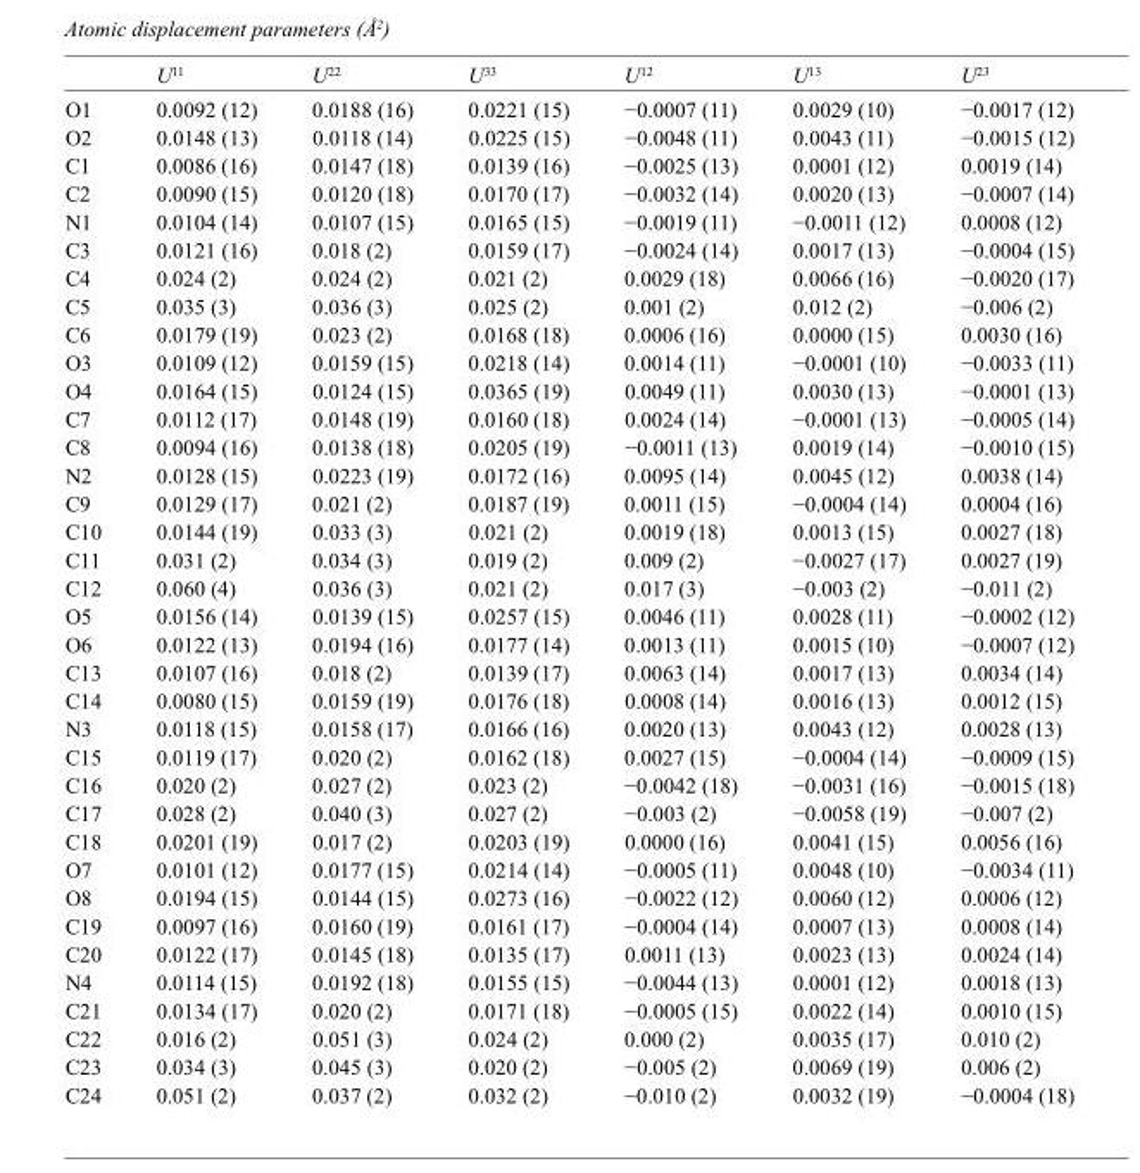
<table><thead><tr><td></td><td>U<sup>11</sup></td><td>U<sup>22</sup></td><td>U<sup>33</sup></td><td>U<sup>12</sup></td><td>U<sup>13</sup></td><td>U<sup>23</sup></td></tr></thead><tbody><tr><td>O1</td><td>0.0092 (12)</td><td>0.0188 (16)</td><td>0.0221 (15)</td><td>−0.0007 (11)</td><td>0.0029 (10)</td><td>−0.0017 (12)</td></tr><tr><td>O2</td><td>0.0148 (13)</td><td>0.0118 (14)</td><td>0.0225 (15)</td><td>−0.0048 (11)</td><td>0.0043 (11)</td><td>−0.0015 (12)</td></tr><tr><td>C1</td><td>0.0086 (16)</td><td>0.0147 (18)</td><td>0.0139 (16)</td><td>−0.0025 (13)</td><td>0.0001 (12)</td><td>0.0019 (14)</td></tr><tr><td>C2</td><td>0.0090 (15)</td><td>0.0120 (18)</td><td>0.0170 (17)</td><td>−0.0032 (14)</td><td>0.0020 (13)</td><td>−0.0007 (14)</td></tr><tr><td>N1</td><td>0.0104 (14)</td><td>0.0107 (15)</td><td>0.0165 (15)</td><td>−0.0019 (11)</td><td>−0.0011 (12)</td><td>0.0008 (12)</td></tr><tr><td>C3</td><td>0.0121 (16)</td><td>0.018 (2)</td><td>0.0159 (17)</td><td>−0.0024 (14)</td><td>0.0017 (13)</td><td>−0.0004 (15)</td></tr><tr><td>C4</td><td>0.024 (2)</td><td>0.024 (2)</td><td>0.021 (2)</td><td>0.0029 (18)</td><td>0.0066 (16)</td><td>−0.0020 (17)</td></tr><tr><td>C5</td><td>0.035 (3)</td><td>0.036 (3)</td><td>0.025 (2)</td><td>0.001 (2)</td><td>0.012 (2)</td><td>−0.006 (2)</td></tr><tr><td>C6</td><td>0.0179 (19)</td><td>0.023 (2)</td><td>0.0168 (18)</td><td>0.0006 (16)</td><td>0.0000 (15)</td><td>0.0030 (16)</td></tr><tr><td>O3</td><td>0.0109 (12)</td><td>0.0159 (15)</td><td>0.0218 (14)</td><td>0.0014 (11)</td><td>−0.0001 (10)</td><td>−0.0033 (11)</td></tr><tr><td>O4</td><td>0.0164 (15)</td><td>0.0124 (15)</td><td>0.0365 (19)</td><td>0.0049 (11)</td><td>0.0030 (13)</td><td>−0.0001 (13)</td></tr><tr><td>C7</td><td>0.0112 (17)</td><td>0.0148 (19)</td><td>0.0160 (18)</td><td>0.0024 (14)</td><td>−0.0001 (13)</td><td>−0.0005 (14)</td></tr><tr><td>C8</td><td>0.0094 (16)</td><td>0.0138 (18)</td><td>0.0205 (19)</td><td>−0.0011 (13)</td><td>0.0019 (14)</td><td>−0.0010 (15)</td></tr><tr><td>N2</td><td>0.0128 (15)</td><td>0.0223 (19)</td><td>0.0172 (16)</td><td>0.0095 (14)</td><td>0.0045 (12)</td><td>0.0038 (14)</td></tr><tr><td>C9</td><td>0.0129 (17)</td><td>0.021 (2)</td><td>0.0187 (19)</td><td>0.0011 (15)</td><td>−0.0004 (14)</td><td>0.0004 (16)</td></tr><tr><td>C10</td><td>0.0144 (19)</td><td>0.033 (3)</td><td>0.021 (2)</td><td>0.0019 (18)</td><td>0.0013 (15)</td><td>0.0027 (18)</td></tr><tr><td>C11</td><td>0.031 (2)</td><td>0.034 (3)</td><td>0.019 (2)</td><td>0.009 (2)</td><td>−0.0027 (17)</td><td>0.0027 (19)</td></tr><tr><td>C12</td><td>0.060 (4)</td><td>0.036 (3)</td><td>0.021 (2)</td><td>0.017 (3)</td><td>−0.003 (2)</td><td>−0.011 (2)</td></tr><tr><td>O5</td><td>0.0156 (14)</td><td>0.0139 (15)</td><td>0.0257 (15)</td><td>0.0046 (11)</td><td>0.0028 (11)</td><td>−0.0002 (12)</td></tr><tr><td>O6</td><td>0.0122 (13)</td><td>0.0194 (16)</td><td>0.0177 (14)</td><td>0.0013 (11)</td><td>0.0015 (10)</td><td>−0.0007 (12)</td></tr><tr><td>C13</td><td>0.0107 (16)</td><td>0.018 (2)</td><td>0.0139 (17)</td><td>0.0063 (14)</td><td>0.0017 (13)</td><td>0.0034 (14)</td></tr><tr><td>C14</td><td>0.0080 (15)</td><td>0.0159 (19)</td><td>0.0176 (18)</td><td>0.0008 (14)</td><td>0.0016 (13)</td><td>0.0012 (15)</td></tr><tr><td>N3</td><td>0.0118 (15)</td><td>0.0158 (17)</td><td>0.0166 (16)</td><td>0.0020 (13)</td><td>0.0043 (12)</td><td>0.0028 (13)</td></tr><tr><td>C15</td><td>0.0119 (17)</td><td>0.020 (2)</td><td>0.0162 (18)</td><td>0.0027 (15)</td><td>−0.0004 (14)</td><td>−0.0009 (15)</td></tr><tr><td>C16</td><td>0.020 (2)</td><td>0.027 (2)</td><td>0.023 (2)</td><td>−0.0042 (18)</td><td>−0.0031 (16)</td><td>−0.0015 (18)</td></tr><tr><td>C17</td><td>0.028 (2)</td><td>0.040 (3)</td><td>0.027 (2)</td><td>−0.003 (2)</td><td>−0.0058 (19)</td><td>−0.007 (2)</td></tr><tr><td>C18</td><td>0.0201 (19)</td><td>0.017 (2)</td><td>0.0203 (19)</td><td>0.0000 (16)</td><td>0.0041 (15)</td><td>0.0056 (16)</td></tr><tr><td>O7</td><td>0.0101 (12)</td><td>0.0177 (15)</td><td>0.0214 (14)</td><td>−0.0005 (11)</td><td>0.0048 (10)</td><td>−0.0034 (11)</td></tr><tr><td>O8</td><td>0.0194 (15)</td><td>0.0144 (15)</td><td>0.0273 (16)</td><td>−0.0022 (12)</td><td>0.0060 (12)</td><td>0.0006 (12)</td></tr><tr><td>C19</td><td>0.0097 (16)</td><td>0.0160 (19)</td><td>0.0161 (17)</td><td>−0.0004 (14)</td><td>0.0007 (13)</td><td>0.0008 (14)</td></tr><tr><td>C20</td><td>0.0122 (17)</td><td>0.0145 (18)</td><td>0.0135 (17)</td><td>0.0011 (13)</td><td>0.0023 (13)</td><td>0.0024 (14)</td></tr><tr><td>N4</td><td>0.0114 (15)</td><td>0.0192 (18)</td><td>0.0155 (15)</td><td>−0.0044 (13)</td><td>0.0001 (12)</td><td>0.0018 (13)</td></tr><tr><td>C21</td><td>0.0134 (17)</td><td>0.020 (2)</td><td>0.0171 (18)</td><td>−0.0005 (15)</td><td>0.0022 (14)</td><td>0.0010 (15)</td></tr><tr><td>C22</td><td>0.016 (2)</td><td>0.051 (3)</td><td>0.024 (2)</td><td>0.000 (2)</td><td>0.0035 (17)</td><td>0.010 (2)</td></tr><tr><td>C23</td><td>0.034 (3)</td><td>0.045 (3)</td><td>0.020 (2)</td><td>−0.005 (2)</td><td>0.0069 (19)</td><td>0.006 (2)</td></tr><tr><td>C24</td><td>0.051 (2)</td><td>0.037 (2)</td><td>0.032 (2)</td><td>−0.010 (2)</td><td>0.0032 (19)</td><td>−0.0004 (18)</td></tr></tbody></table>